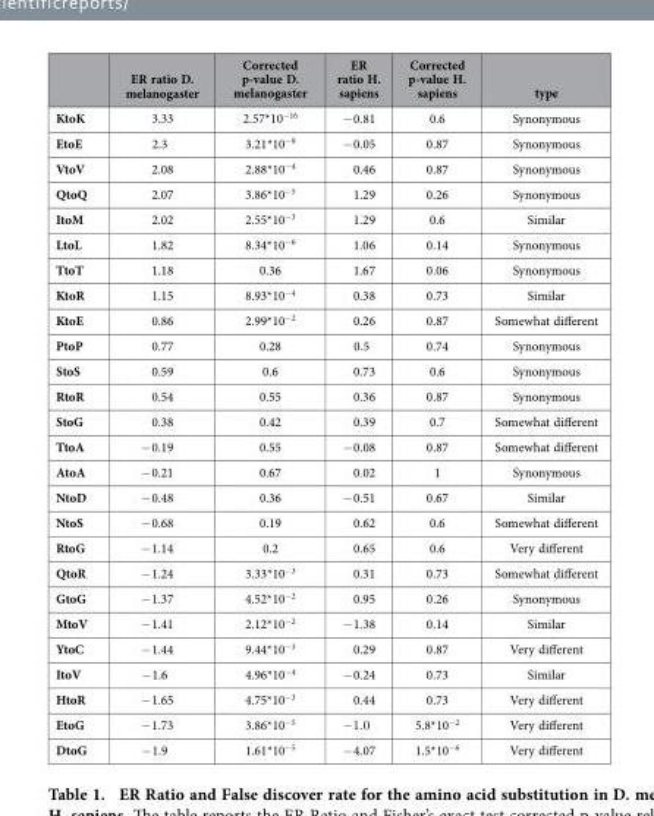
<table><thead><tr><td></td><td>ER ratio D. melanogaster</td><td>Corrected p-value D. melanogaster</td><td>ER ratio H. sapiens</td><td>Corrected p-value H. sapiens</td><td>type</td></tr></thead><tbody><tr><td>KtoK</td><td>3.33</td><td>2.57*10<sup>−16</sup></td><td>− 0.81</td><td>0.6</td><td>Synonymous</td></tr><tr><td>EtoE</td><td>2.3</td><td>3.21*10<sup>−9</sup></td><td>− 0.05</td><td>0.87</td><td>Synonymous</td></tr><tr><td>VtoV</td><td>2.08</td><td>2.88*10<sup>−4</sup></td><td>0.46</td><td>0.87</td><td>Synonymous</td></tr><tr><td>QtoQ</td><td>2.07</td><td>3.86*10<sup>−5</sup></td><td>1.29</td><td>0.26</td><td>Synonymous</td></tr><tr><td>ItoM</td><td>2.02</td><td>2.55*10<sup>−3</sup></td><td>1.29</td><td>0.6</td><td>Similar</td></tr><tr><td>LtoL</td><td>1.82</td><td>8.34*10<sup>−6</sup></td><td>1.06</td><td>0.14</td><td>Synonymous</td></tr><tr><td>TtoT</td><td>1.18</td><td>0.36</td><td>1.67</td><td>0.06</td><td>Synonymous</td></tr><tr><td>KtoR</td><td>1.15</td><td>8.93*10<sup>−4</sup></td><td>0.38</td><td>0.73</td><td>Similar</td></tr><tr><td>KtoE</td><td>0.86</td><td>2.99*10<sup>−2</sup></td><td>0.26</td><td>0.87</td><td>Somewhat different</td></tr><tr><td>PtoP</td><td>0.77</td><td>0.28</td><td>0.5</td><td>0.74</td><td>Synonymous</td></tr><tr><td>StoS</td><td>0.59</td><td>0.6</td><td>0.73</td><td>0.6</td><td>Synonymous</td></tr><tr><td>RtoR</td><td>0.54</td><td>0.55</td><td>0.36</td><td>0.87</td><td>Synonymous</td></tr><tr><td>StoG</td><td>0.38</td><td>0.42</td><td>0.39</td><td>0.7</td><td>Somewhat different</td></tr><tr><td>TtoA</td><td>− 0.19</td><td>0.55</td><td>− 0.08</td><td>0.87</td><td>Somewhat different</td></tr><tr><td>AtoA</td><td>− 0.21</td><td>0.67</td><td>0.02</td><td>1</td><td>Synonymous</td></tr><tr><td>NtoD</td><td>− 0.48</td><td>0.36</td><td>− 0.51</td><td>0.67</td><td>Similar</td></tr><tr><td>NtoS</td><td>− 0.68</td><td>0.19</td><td>0.62</td><td>0.6</td><td>Somewhat different</td></tr><tr><td>RtoG</td><td>− 1.14</td><td>0.2</td><td>0.65</td><td>0.6</td><td>Very different</td></tr><tr><td>QtoR</td><td>− 1.24</td><td>3.33*10<sup>−3</sup></td><td>0.31</td><td>0.73</td><td>Somewhat different</td></tr><tr><td>GtoG</td><td>− 1.37</td><td>4.52*10<sup>−2</sup></td><td>0.95</td><td>0.26</td><td>Synonymous</td></tr><tr><td>MtoV</td><td>− 1.41</td><td>2.12*10<sup>−2</sup></td><td>− 1.38</td><td>0.14</td><td>Similar</td></tr><tr><td>YtoC</td><td>− 1.44</td><td>9.44*10<sup>−3</sup></td><td>0.29</td><td>0.87</td><td>Very different</td></tr><tr><td>ItoV</td><td>− 1.6</td><td>4.96*10<sup>−4</sup></td><td>− 0.24</td><td>0.73</td><td>Similar</td></tr><tr><td>HtoR</td><td>− 1.65</td><td>4.75*10<sup>−3</sup></td><td>0.44</td><td>0.73</td><td>Very different</td></tr><tr><td>EtoG</td><td>− 1.73</td><td>3.86*10<sup>−5</sup></td><td>−1.0</td><td>5.8*10<sup>−2</sup></td><td>Very different</td></tr><tr><td>DtoG</td><td>− 1.9</td><td>1.61*10<sup>−5</sup></td><td>− 4.07</td><td>1.5*10<sup>−6</sup></td><td>Very different</td></tr></tbody></table>